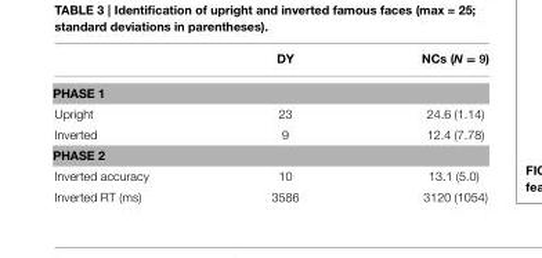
<table><thead><tr><td></td><td>DY</td><td>NCs (N = 9)</td></tr></thead><tbody><tr><td colspan="3">PHASE 1</td></tr><tr><td>Upright</td><td>23</td><td>24.6 (1.14)</td></tr><tr><td>Inverted</td><td>9</td><td>12.4 (7.78)</td></tr><tr><td colspan="3">PHASE 2</td></tr><tr><td>Inverted accuracy</td><td>10</td><td>13.1 (5.0)</td></tr><tr><td>Inverted RT (ms)</td><td>3586</td><td>3120 (1054)</td></tr></tbody></table>